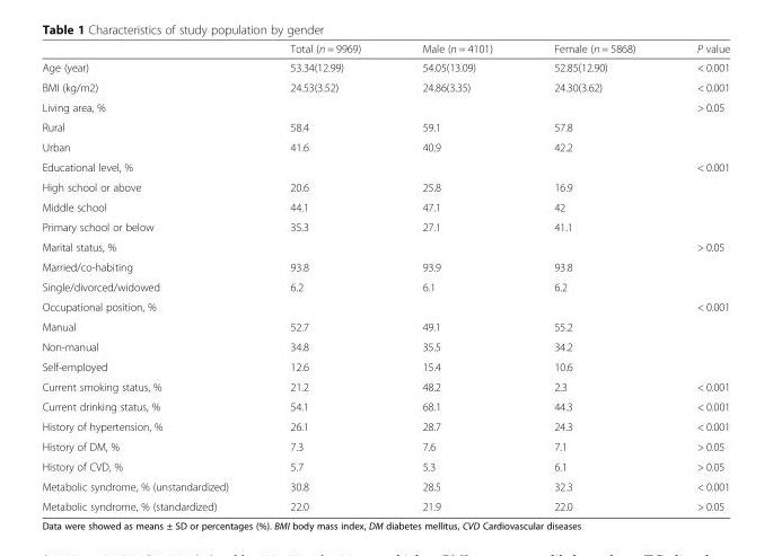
<table><thead><tr><td></td><td>Total (n = 9969)</td><td>Male (n = 4101)</td><td>Female (n = 5868)</td><td>P value</td></tr></thead><tbody><tr><td>Age (year)</td><td>53.34(12.99)</td><td>54.05(13.09)</td><td>52.85(12.90)</td><td>&lt; 0.001</td></tr><tr><td>BMI (kg/m2)</td><td>24.53(3.52)</td><td>24.86(3.35)</td><td>24.30(3.62)</td><td>&lt; 0.001</td></tr><tr><td>Living area, %</td><td></td><td></td><td></td><td>&gt; 0.05</td></tr><tr><td>Rural</td><td>58.4</td><td>59.1</td><td>57.8</td><td></td></tr><tr><td>Urban</td><td>41.6</td><td>40.9</td><td>42.2</td><td></td></tr><tr><td>Educational level, %</td><td></td><td></td><td></td><td>&lt; 0.001</td></tr><tr><td>High school or above</td><td>20.6</td><td>25.8</td><td>16.9</td><td></td></tr><tr><td>Middle school</td><td>44.1</td><td>47.1</td><td>42</td><td></td></tr><tr><td>Primary school or below</td><td>35.3</td><td>27.1</td><td>41.1</td><td></td></tr><tr><td>Marital status, %</td><td></td><td></td><td></td><td>&gt; 0.05</td></tr><tr><td>Married/co-habiting</td><td>93.8</td><td>93.9</td><td>93.8</td><td></td></tr><tr><td>Single/divorced/widowed</td><td>6.2</td><td>6.1</td><td>6.2</td><td></td></tr><tr><td>Occupational position, %</td><td></td><td></td><td></td><td>&lt; 0.001</td></tr><tr><td>Manual</td><td>52.7</td><td>49.1</td><td>55.2</td><td></td></tr><tr><td>Non-manual</td><td>34.8</td><td>35.5</td><td>34.2</td><td></td></tr><tr><td>Self-employed</td><td>12.6</td><td>15.4</td><td>10.6</td><td></td></tr><tr><td>Current smoking status, %</td><td>21.2</td><td>48.2</td><td>2.3</td><td>&lt; 0.001</td></tr><tr><td>Current drinking status, %</td><td>54.1</td><td>68.1</td><td>44.3</td><td>&lt; 0.001</td></tr><tr><td>History of hypertension, %</td><td>26.1</td><td>28.7</td><td>24.3</td><td>&lt; 0.001</td></tr><tr><td>History of DM, %</td><td>7.3</td><td>7.6</td><td>7.1</td><td>&gt; 0.05</td></tr><tr><td>History of CVD, %</td><td>5.7</td><td>5.3</td><td>6.1</td><td>&gt; 0.05</td></tr><tr><td>Metabolic syndrome, % (unstandardized)</td><td>30.8</td><td>28.5</td><td>32.3</td><td>&lt; 0.001</td></tr><tr><td>Metabolic syndrome, % (standardized)</td><td>22.0</td><td>21.9</td><td>22.0</td><td>&gt; 0.05</td></tr></tbody></table>